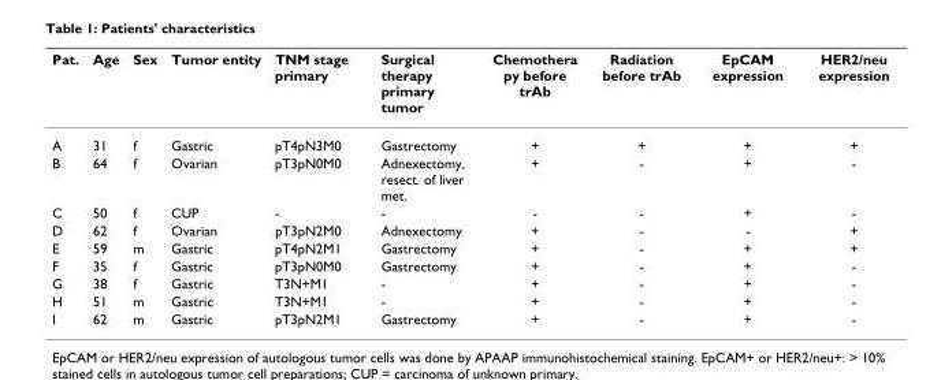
<table><thead><tr><td>Pat.</td><td>Age</td><td>Sex</td><td>Tumor entity</td><td>TNM stage primary</td><td>Surgical therapy primary tumor</td><td>Chemothera py before trAb</td><td>Radiation before trAb</td><td>EpCAM expression</td><td>HER2/neu expression</td></tr></thead><tbody><tr><td>A</td><td>31</td><td>f</td><td>Gastric</td><td>pT4pN3M0</td><td>Gastrectomy</td><td>+</td><td>+</td><td>+</td><td>+</td></tr><tr><td>B</td><td>64</td><td>f</td><td>Ovarian</td><td>pT3pN0M0</td><td>Adnexectomy, resect. of liver met.</td><td>+</td><td>-</td><td>+</td><td>-</td></tr><tr><td>C</td><td>50</td><td>f</td><td>CUP</td><td>-</td><td>-</td><td>-</td><td>-</td><td>+</td><td>-</td></tr><tr><td>D</td><td>62</td><td>f</td><td>Ovarian</td><td>pT3pN2M0</td><td>Adnexectomy</td><td>+</td><td>-</td><td>-</td><td>+</td></tr><tr><td>E</td><td>59</td><td>m</td><td>Gastric</td><td>pT4pN2M1</td><td>Gastrectomy</td><td>+</td><td>-</td><td>+</td><td>+</td></tr><tr><td>F</td><td>35</td><td>f</td><td>Gastric</td><td>pT3pN0M0</td><td>Gastrectomy</td><td>+</td><td>-</td><td>+</td><td>-</td></tr><tr><td>G</td><td>38</td><td>f</td><td>Gastric</td><td>T3N+M1</td><td>-</td><td>+</td><td>-</td><td>+</td><td>-</td></tr><tr><td>H</td><td>51</td><td>m</td><td>Gastric</td><td>T3N+M1</td><td>-</td><td>+</td><td>-</td><td>+</td><td>-</td></tr><tr><td>I</td><td>62</td><td>m</td><td>Gastric</td><td>pT3pN2M1</td><td>Gastrectomy</td><td>+</td><td>-</td><td>+</td><td>-</td></tr></tbody></table>